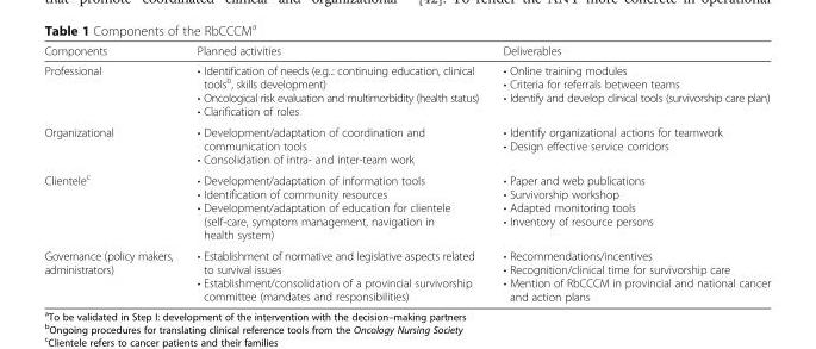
<table><thead><tr><td>Components</td><td>Planned activities</td><td>Deliverables</td></tr></thead><tbody><tr><td>Professional</td><td>• Identification of needs (e.g..: continuing education, clinical tools<sup>b</sup>, skills development) • Oncological risk evaluation and multimorbidity (health status) • Clarification of roles</td><td>• Online training modules • Criteria for referrals between teams • Identify and develop clinical tools (survivorship care plan)</td></tr><tr><td>Organizational</td><td>• Development/adaptation of coordination and communication tools • Consolidation of intra- and inter-team work</td><td>• Identify organizational actions for teamwork • Design effective service corridors</td></tr><tr><td>Clientele<sup>c</sup></td><td>• Development/adaptation of information tools • Identification of community resources • Development/adaptation of education for clientele (self-care, symptom management, navigation in health system)</td><td>• Paper and web publications • Survivorship workshop • Adapted monitoring tools • Inventory of resource persons</td></tr><tr><td>Governance (policy makers, administrators)</td><td>• Establishment of normative and legislative aspects related to survival issues • Establishment/consolidation of a provincial survivorship committee (mandates and responsibilities)</td><td>• Recommendations/incentives • Recognition/clinical time for survivorship care • Mention of RbCCCM in provincial and national cancer and action plans</td></tr></tbody></table>